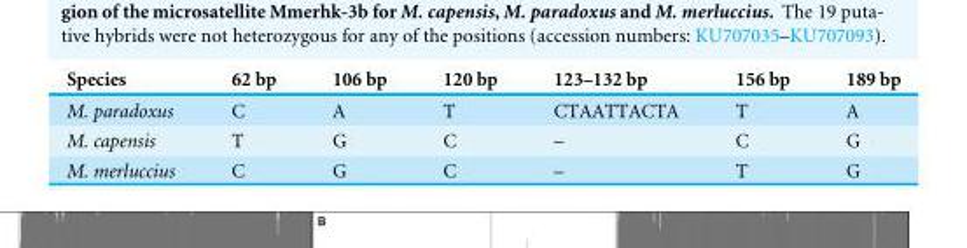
<table><thead><tr><td>Species</td><td>62 bp</td><td>106 bp</td><td>120 bp</td><td>123–132 bp</td><td>156 bp</td><td>189 bp</td></tr></thead><tbody><tr><td>M. paradoxus</td><td>C</td><td>A</td><td>T</td><td>CTAATTACTA</td><td>T</td><td>A</td></tr><tr><td>M. capensis</td><td>T</td><td>G</td><td>C</td><td>–</td><td>C</td><td>G</td></tr><tr><td>M. merluccius</td><td>C</td><td>G</td><td>C</td><td>–</td><td>T</td><td>G</td></tr></tbody></table>